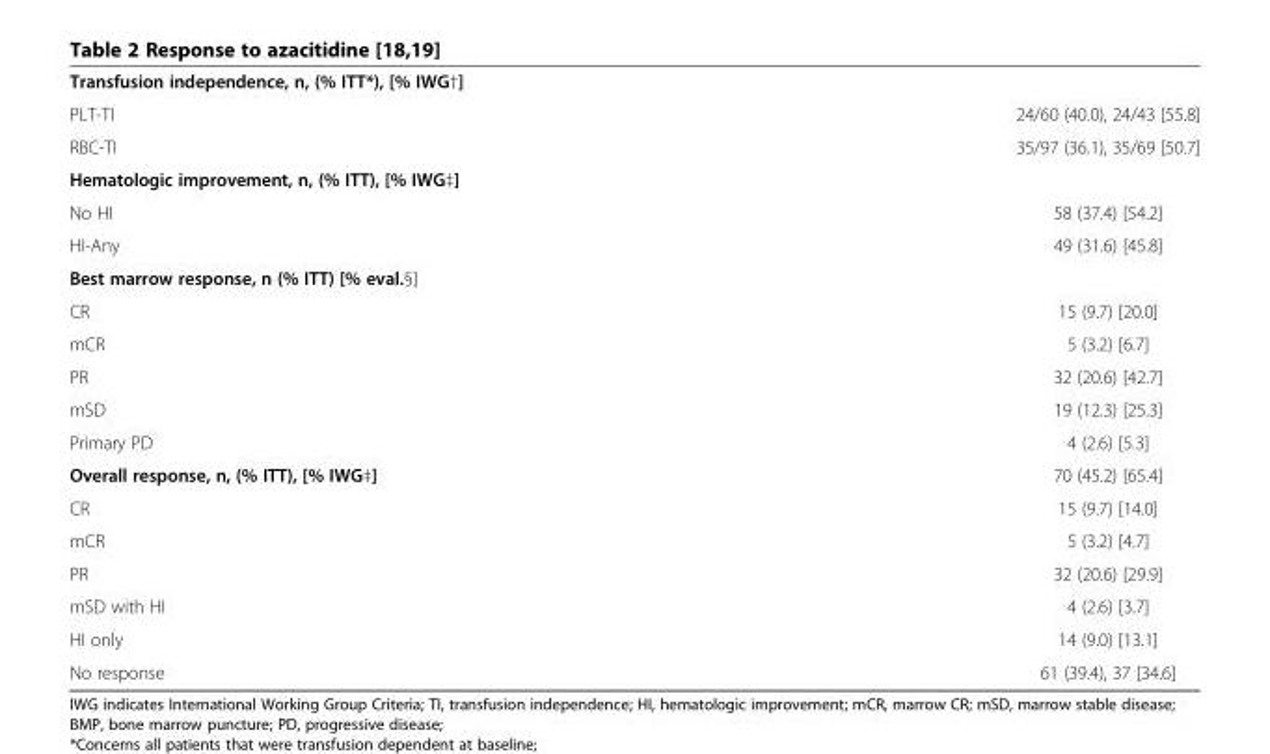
<table><tbody><tr><td colspan="2">Transfusion independence, n, (% ITT*), [% IWG†]</td></tr><tr><td>PLT-TI</td><td>24/60 (40.0), 24/43 [55.8]</td></tr><tr><td>RBC-TI</td><td>35/97 (36.1), 35/69 [50.7]</td></tr><tr><td colspan="2">Hematologic improvement, n, (% ITT), [% IWG‡]</td></tr><tr><td>No HI</td><td>58 (37.4) [54.2]</td></tr><tr><td>HI-Any</td><td>49 (31.6) [45.8]</td></tr><tr><td colspan="2">Best marrow response, n (% ITT) [% eval.§]</td></tr><tr><td>CR</td><td>15 (9.7) [20.0]</td></tr><tr><td>mCR</td><td>5 (3.2) [6.7]</td></tr><tr><td>PR</td><td>32 (20.6) [42.7]</td></tr><tr><td>mSD</td><td>19 (12.3) [25.3]</td></tr><tr><td>Primary PD</td><td>4 (2.6) [5.3]</td></tr><tr><td>Overall response, n, (% ITT), [% IWG‡]</td><td>70 (45.2) [65.4]</td></tr><tr><td>CR</td><td>15 (9.7) [14.0]</td></tr><tr><td>mCR</td><td>5 (3.2) [4.7]</td></tr><tr><td>PR</td><td>32 (20.6) [29.9]</td></tr><tr><td>mSD with HI</td><td>4 (2.6) [3.7]</td></tr><tr><td>HI only</td><td>14 (9.0) [13.1]</td></tr><tr><td>No response</td><td>61 (39.4), 37 [34.6]</td></tr></tbody></table>